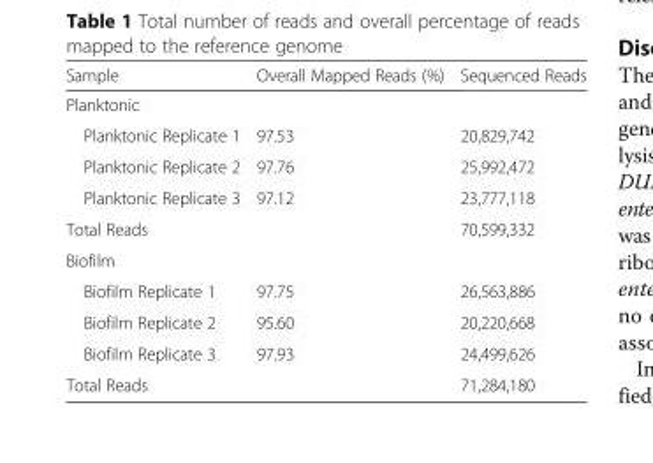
<table><thead><tr><td>Sample</td><td>Overall Mapped Reads (%)</td><td>Sequenced Reads</td></tr></thead><tbody><tr><td colspan="3">Planktonic</td></tr><tr><td>Planktonic Replicate 1</td><td>97.53</td><td>20,829,742</td></tr><tr><td>Planktonic Replicate 2</td><td>97.76</td><td>25,992,472</td></tr><tr><td>Planktonic Replicate 3</td><td>97.12</td><td>23,777,118</td></tr><tr><td>Total Reads</td><td></td><td>70,599,332</td></tr><tr><td colspan="3">Biofilm</td></tr><tr><td>Biofilm Replicate 1</td><td>97.75</td><td>26,563,886</td></tr><tr><td>Biofilm Replicate 2</td><td>95.60</td><td>20,220,668</td></tr><tr><td>Biofilm Replicate 3</td><td>97.93</td><td>24,499,626</td></tr><tr><td>Total Reads</td><td></td><td>71,284,180</td></tr></tbody></table>